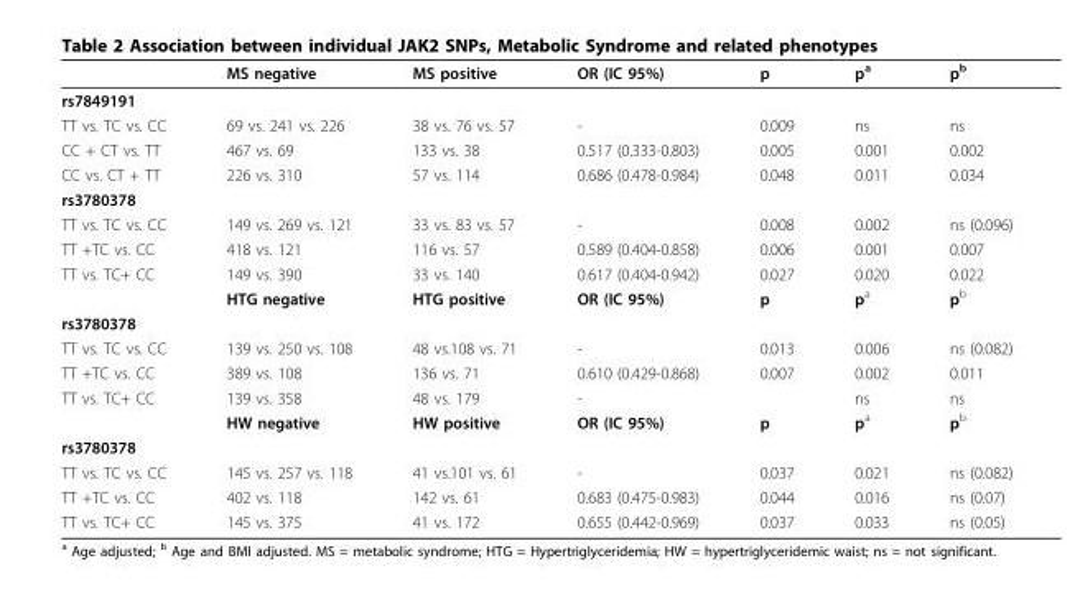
<table><thead><tr><td></td><td>MS negative</td><td>MS positive</td><td>OR (IC 95%)</td><td>p</td><td>p<sup>a</sup></td><td>p<sup>b</sup></td></tr></thead><tbody><tr><td colspan="7">rs7849191</td></tr><tr><td>TT vs. TC vs. CC</td><td>69 vs. 241 vs. 226</td><td>38 vs. 76 vs. 57</td><td>-</td><td>0.009</td><td>ns</td><td>ns</td></tr><tr><td>CC + CT vs. TT</td><td>467 vs. 69</td><td>133 vs. 38</td><td>0.517 (0.333-0.803)</td><td>0.005</td><td>0.001</td><td>0.002</td></tr><tr><td>CC vs. CT + TT</td><td>226 vs. 310</td><td>57 vs. 114</td><td>0.686 (0.478-0.984)</td><td>0.048</td><td>0.011</td><td>0.034</td></tr><tr><td colspan="7">rs3780378</td></tr><tr><td>TT vs. TC vs. CC</td><td>149 vs. 269 vs. 121</td><td>33 vs. 83 vs. 57</td><td>-</td><td>0.008</td><td>0.002</td><td>ns (0.096)</td></tr><tr><td>TT +TC vs. CC</td><td>418 vs. 121</td><td>116 vs. 57</td><td>0.589 (0.404-0.858)</td><td>0.006</td><td>0.001</td><td>0.007</td></tr><tr><td rowspan="2">TT vs. TC+ CC</td><td>149 vs. 390</td><td>33 vs. 140</td><td>0.617 (0.404-0.942)</td><td>0.027</td><td>0.020</td><td>0.022</td></tr><tr><td>HTG negative</td><td>HTG positive</td><td>OR (IC 95%)</td><td>p</td><td>p<sup>a</sup></td><td>p<sup>b</sup></td></tr><tr><td colspan="7">rs3780378</td></tr><tr><td>TT vs. TC vs. CC</td><td>139 vs. 250 vs. 108</td><td>48 vs.108 vs. 71</td><td>-</td><td>0.013</td><td>0.006</td><td>ns (0.082)</td></tr><tr><td>TT +TC vs. CC</td><td>389 vs. 108</td><td>136 vs. 71</td><td>0.610 (0.429-0.868)</td><td>0.007</td><td>0.002</td><td>0.011</td></tr><tr><td rowspan="2">TT vs. TC+ CC</td><td>139 vs. 358</td><td>48 vs. 179</td><td>-</td><td></td><td>ns</td><td>ns</td></tr><tr><td>HW negative</td><td>HW positive</td><td>OR (IC 95%)</td><td>p</td><td>p<sup>a</sup></td><td>p<sup>b</sup></td></tr><tr><td colspan="7">rs3780378</td></tr><tr><td>TT vs. TC vs. CC</td><td>145 vs. 257 vs. 118</td><td>41 vs.101 vs. 61</td><td>-</td><td>0.037</td><td>0.021</td><td>ns (0.082)</td></tr><tr><td>TT +TC vs. CC</td><td>402 vs. 118</td><td>142 vs. 61</td><td>0.683 (0.475-0.983)</td><td>0.044</td><td>0.016</td><td>ns (0.07)</td></tr><tr><td>TT vs. TC+ CC</td><td>145 vs. 375</td><td>41 vs. 172</td><td>0.655 (0.442-0.969)</td><td>0.037</td><td>0.033</td><td>ns (0.05)</td></tr></tbody></table>